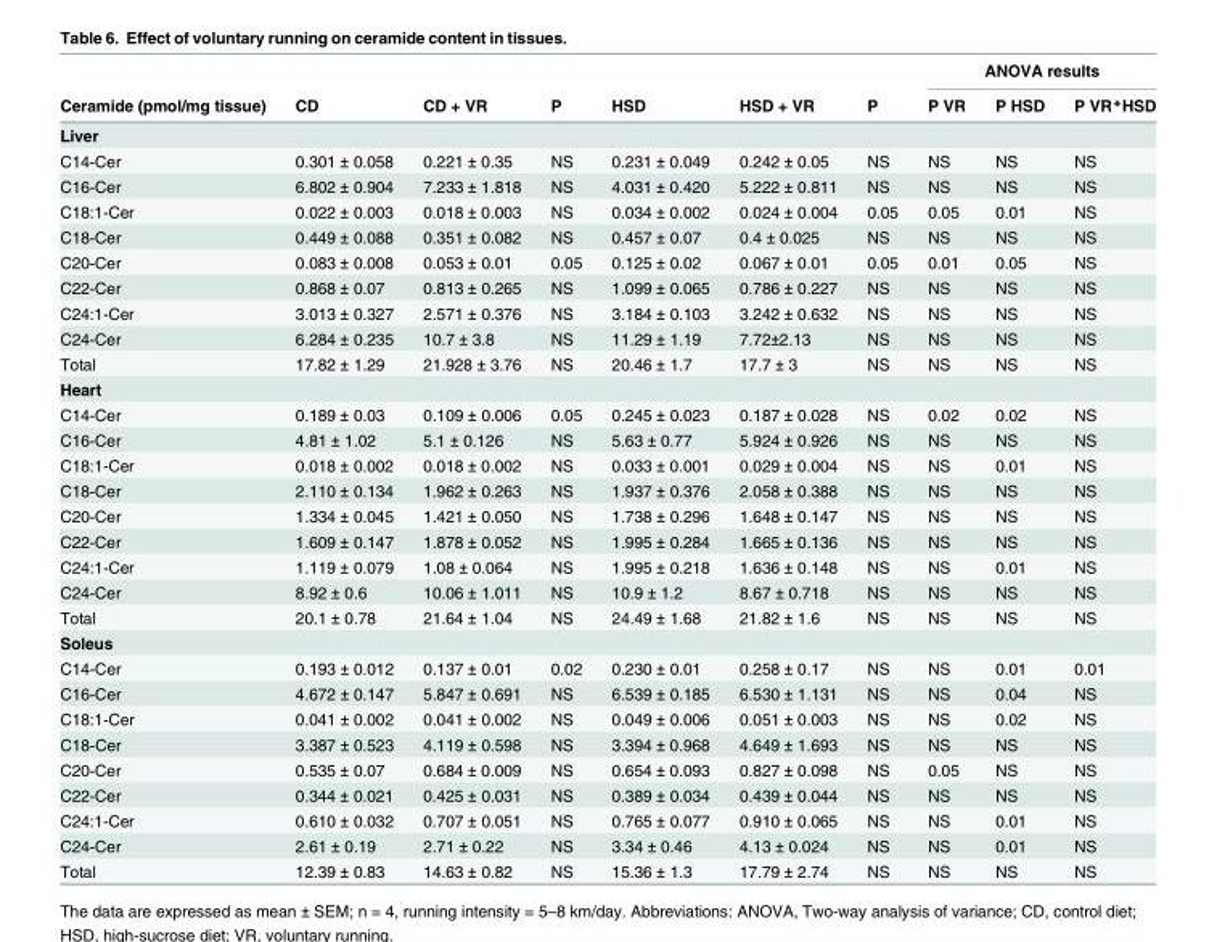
<table><thead><tr><td rowspan="2">Ceramide (pmol/mg tissue)</td><td rowspan="2">CD</td><td rowspan="2">CD + VR</td><td rowspan="2">P</td><td rowspan="2">HSD</td><td rowspan="2">HSD + VR</td><td rowspan="2">P</td><td colspan="3">ANOVA results</td></tr><tr><td>P VR</td><td>P HSD</td><td>P VR*HSD</td></tr></thead><tbody><tr><td colspan="10">Liver</td></tr><tr><td>C14-Cer</td><td>0.301 ± 0.058</td><td>0.221 ± 0.35</td><td>NS</td><td>0.231 ± 0.049</td><td>0.242 ± 0.05</td><td>NS</td><td>NS</td><td>NS</td><td>NS</td></tr><tr><td>C16-Cer</td><td>6.802 ± 0.904</td><td>7.233 ± 1.818</td><td>NS</td><td>4.031 ± 0.420</td><td>5.222 ± 0.811</td><td>NS</td><td>NS</td><td>NS</td><td>NS</td></tr><tr><td>C18:1-Cer</td><td>0.022 ± 0.003</td><td>0.018 ± 0.003</td><td>NS</td><td>0.034 ± 0.002</td><td>0.024 ± 0.004</td><td>0.05</td><td>0.05</td><td>0.01</td><td>NS</td></tr><tr><td>C18-Cer</td><td>0.449 ± 0.088</td><td>0.351 ± 0.082</td><td>NS</td><td>0.457 ± 0.07</td><td>0.4 ± 0.025</td><td>NS</td><td>NS</td><td>NS</td><td>NS</td></tr><tr><td>C20-Cer</td><td>0.083 ± 0.008</td><td>0.053 ± 0.01</td><td>0.05</td><td>0.125 ± 0.02</td><td>0.067 ± 0.01</td><td>0.05</td><td>0.01</td><td>0.05</td><td>NS</td></tr><tr><td>C22-Cer</td><td>0.868 ± 0.07</td><td>0.813 ± 0.265</td><td>NS</td><td>1.099 ± 0.065</td><td>0.786 ± 0.227</td><td>NS</td><td>NS</td><td>NS</td><td>NS</td></tr><tr><td>C24:1-Cer</td><td>3.013 ± 0.327</td><td>2.571 ± 0.376</td><td>NS</td><td>3.184 ± 0.103</td><td>3.242 ± 0.632</td><td>NS</td><td>NS</td><td>NS</td><td>NS</td></tr><tr><td>C24-Cer</td><td>6.284 ± 0.235</td><td>10.7 ± 3.8</td><td>NS</td><td>11.29 ± 1.19</td><td>7.72±2.13</td><td>NS</td><td>NS</td><td>NS</td><td>NS</td></tr><tr><td>Total</td><td>17.82 ± 1.29</td><td>21.928 ± 3.76</td><td>NS</td><td>20.46 ± 1.7</td><td>17.7 ± 3</td><td>NS</td><td>NS</td><td>NS</td><td>NS</td></tr><tr><td colspan="10">Heart</td></tr><tr><td>C14-Cer</td><td>0.189 ± 0.03</td><td>0.109 ± 0.006</td><td>0.05</td><td>0.245 ± 0.023</td><td>0.187 ± 0.028</td><td>NS</td><td>0.02</td><td>0.02</td><td>NS</td></tr><tr><td>C16-Cer</td><td>4.81 ± 1.02</td><td>5.1 ± 0.126</td><td>NS</td><td>5.63 ± 0.77</td><td>5.924 ± 0.926</td><td>NS</td><td>NS</td><td>NS</td><td>NS</td></tr><tr><td>C18:1-Cer</td><td>0.018 ± 0.002</td><td>0.018 ± 0.002</td><td>NS</td><td>0.033 ± 0.001</td><td>0.029 ± 0.004</td><td>NS</td><td>NS</td><td>0.01</td><td>NS</td></tr><tr><td>C18-Cer</td><td>2.110 ± 0.134</td><td>1.962 ± 0.263</td><td>NS</td><td>1.937 ± 0.376</td><td>2.058 ± 0.388</td><td>NS</td><td>NS</td><td>NS</td><td>NS</td></tr><tr><td>C20-Cer</td><td>1.334 ± 0.045</td><td>1.421 ± 0.050</td><td>NS</td><td>1.738 ± 0.296</td><td>1.648 ± 0.147</td><td>NS</td><td>NS</td><td>NS</td><td>NS</td></tr><tr><td>C22-Cer</td><td>1.609 ± 0.147</td><td>1.878 ± 0.052</td><td>NS</td><td>1.995 ± 0.284</td><td>1.665 ± 0.136</td><td>NS</td><td>NS</td><td>NS</td><td>NS</td></tr><tr><td>C24:1-Cer</td><td>1.119 ± 0.079</td><td>1.08 ± 0.064</td><td>NS</td><td>1.995 ± 0.218</td><td>1.636 ± 0.148</td><td>NS</td><td>NS</td><td>0.01</td><td>NS</td></tr><tr><td>C24-Cer</td><td>8.92 ± 0.6</td><td>10.06 ± 1.011</td><td>NS</td><td>10.9 ± 1.2</td><td>8.67 ± 0.718</td><td>NS</td><td>NS</td><td>NS</td><td>NS</td></tr><tr><td>Total</td><td>20.1 ± 0.78</td><td>21.64 ± 1.04</td><td>NS</td><td>24.49 ± 1.68</td><td>21.82 ± 1.6</td><td>NS</td><td>NS</td><td>NS</td><td>NS</td></tr><tr><td colspan="10">Soleus</td></tr><tr><td>C14-Cer</td><td>0.193 ± 0.012</td><td>0.137 ± 0.01</td><td>0.02</td><td>0.230 ± 0.01</td><td>0.258 ± 0.17</td><td>NS</td><td>NS</td><td>0.01</td><td>0.01</td></tr><tr><td>C16-Cer</td><td>4.672 ± 0.147</td><td>5.847 ± 0.691</td><td>NS</td><td>6.539 ± 0.185</td><td>6.530 ± 1.131</td><td>NS</td><td>NS</td><td>0.04</td><td>NS</td></tr><tr><td>C18:1-Cer</td><td>0.041 ± 0.002</td><td>0.041 ± 0.002</td><td>NS</td><td>0.049 ± 0.006</td><td>0.051 ± 0.003</td><td>NS</td><td>NS</td><td>0.02</td><td>NS</td></tr><tr><td>C18-Cer</td><td>3.387 ± 0.523</td><td>4.119 ± 0.598</td><td>NS</td><td>3.394 ± 0.968</td><td>4.649 ± 1.693</td><td>NS</td><td>NS</td><td>NS</td><td>NS</td></tr><tr><td>C20-Cer</td><td>0.535 ± 0.07</td><td>0.684 ± 0.009</td><td>NS</td><td>0.654 ± 0.093</td><td>0.827 ± 0.098</td><td>NS</td><td>0.05</td><td>NS</td><td>NS</td></tr><tr><td>C22-Cer</td><td>0.344 ± 0.021</td><td>0.425 ± 0.031</td><td>NS</td><td>0.389 ± 0.034</td><td>0.439 ± 0.044</td><td>NS</td><td>NS</td><td>NS</td><td>NS</td></tr><tr><td>C24:1-Cer</td><td>0.610 ± 0.032</td><td>0.707 ± 0.051</td><td>NS</td><td>0.765 ± 0.077</td><td>0.910 ± 0.065</td><td>NS</td><td>NS</td><td>0.01</td><td>NS</td></tr><tr><td>C24-Cer</td><td>2.61 ± 0.19</td><td>2.71 ± 0.22</td><td>NS</td><td>3.34 ± 0.46</td><td>4.13 ± 0.024</td><td>NS</td><td>NS</td><td>0.01</td><td>NS</td></tr><tr><td>Total</td><td>12.39 ± 0.83</td><td>14.63 ± 0.82</td><td>NS</td><td>15.36 ± 1.3</td><td>17.79 ± 2.74</td><td>NS</td><td>NS</td><td>NS</td><td>NS</td></tr></tbody></table>